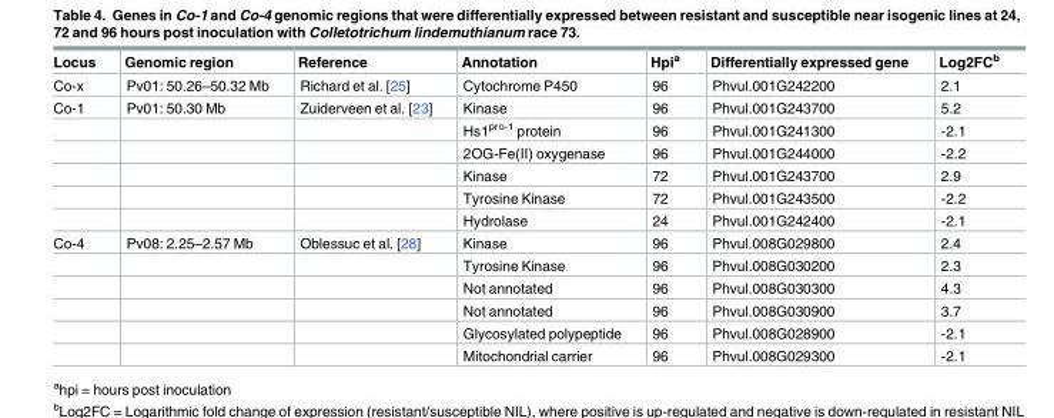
<table><thead><tr><td>Locus</td><td>Genomic region</td><td>Reference</td><td>Annotation</td><td>Hpi<sup>a</sup></td><td>Differentially expressed gene</td><td>Log2FC<sup>b</sup></td></tr></thead><tbody><tr><td>Co-x</td><td>Pv01: 50.26–50.32 Mb</td><td>Richard et al. [25]</td><td>Cytochrome P450</td><td>96</td><td>Phvul.001G242200</td><td>2.1</td></tr><tr><td rowspan="6">Co-1</td><td>Pv01: 50.30 Mb</td><td>Zuiderveen et al. [23]</td><td>Kinase</td><td>96</td><td>Phvul.001G243700</td><td>5.2</td></tr><tr><td></td><td></td><td>Hs1<sup>pro-1</sup> protein</td><td>96</td><td>Phvul.001G241300</td><td>-2.1</td></tr><tr><td></td><td></td><td>2OG-Fe(II) oxygenase</td><td>96</td><td>Phvul.001G244000</td><td>-2.2</td></tr><tr><td></td><td></td><td>Kinase</td><td>72</td><td>Phvul.001G243700</td><td>2.9</td></tr><tr><td></td><td></td><td>Tyrosine Kinase</td><td>72</td><td>Phvul.001G243500</td><td>-2.2</td></tr><tr><td></td><td></td><td>Hydrolase</td><td>24</td><td>Phvul.001G242400</td><td>-2.1</td></tr><tr><td rowspan="6">Co-4</td><td>Pv08: 2.25–2.57 Mb</td><td>Oblessuc et al. [28]</td><td>Kinase</td><td>96</td><td>Phvul.008G029800</td><td>2.4</td></tr><tr><td></td><td></td><td>Tyrosine Kinase</td><td>96</td><td>Phvul.008G030200</td><td>2.3</td></tr><tr><td></td><td></td><td>Not annotated</td><td>96</td><td>Phvul.008G030300</td><td>4.3</td></tr><tr><td></td><td></td><td>Not annotated</td><td>96</td><td>Phvul.008G030900</td><td>3.7</td></tr><tr><td></td><td></td><td>Glycosylated polypeptide</td><td>96</td><td>Phvul.008G028900</td><td>-2.1</td></tr><tr><td></td><td></td><td>Mitochondrial carrier</td><td>96</td><td>Phvul.008G029300</td><td>-2.1</td></tr></tbody></table>